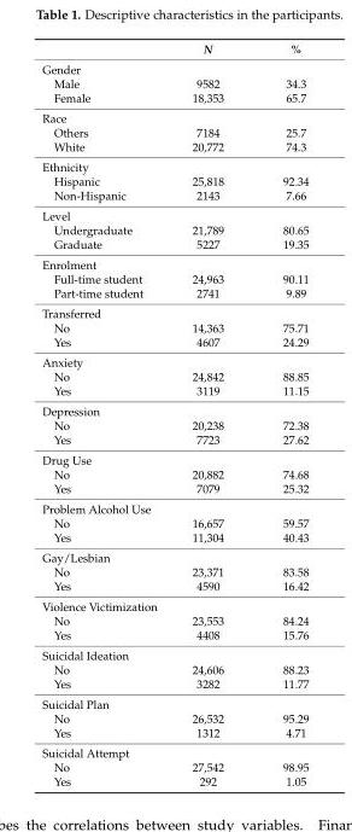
<table><thead><tr><td></td><td>N</td><td>%</td></tr></thead><tbody><tr><td colspan="3">Gender</td></tr><tr><td>Male</td><td>9582</td><td>34.3</td></tr><tr><td>Female</td><td>18,353</td><td>65.7</td></tr><tr><td colspan="3">Race</td></tr><tr><td>Others</td><td>7184</td><td>25.7</td></tr><tr><td>White</td><td>20,772</td><td>74.3</td></tr><tr><td colspan="3">Ethnicity</td></tr><tr><td>Hispanic</td><td>25,818</td><td>92.34</td></tr><tr><td>Non-Hispanic</td><td>2143</td><td>7.66</td></tr><tr><td colspan="3">Level</td></tr><tr><td>Undergraduate</td><td>21,789</td><td>80.65</td></tr><tr><td>Graduate</td><td>5227</td><td>19.35</td></tr><tr><td colspan="3">Enrolment</td></tr><tr><td>Full-time student</td><td>24,963</td><td>90.11</td></tr><tr><td>Part-time student</td><td>2741</td><td>9.89</td></tr><tr><td colspan="3">Transferred</td></tr><tr><td>No</td><td>14,363</td><td>75.71</td></tr><tr><td>Yes</td><td>4607</td><td>24.29</td></tr><tr><td colspan="3">Anxiety</td></tr><tr><td>No</td><td>24,842</td><td>88.85</td></tr><tr><td>Yes</td><td>3119</td><td>11.15</td></tr><tr><td colspan="3">Depression</td></tr><tr><td>No</td><td>20,238</td><td>72.38</td></tr><tr><td>Yes</td><td>7723</td><td>27.62</td></tr><tr><td colspan="3">Drug Use</td></tr><tr><td>No</td><td>20,882</td><td>74.68</td></tr><tr><td>Yes</td><td>7079</td><td>25.32</td></tr><tr><td colspan="3">Problem Alcohol Use</td></tr><tr><td>No</td><td>16,657</td><td>59.57</td></tr><tr><td>Yes</td><td>11,304</td><td>40.43</td></tr><tr><td colspan="3">Gay/Lesbian</td></tr><tr><td>No</td><td>23,371</td><td>83.58</td></tr><tr><td>Yes</td><td>4590</td><td>16.42</td></tr><tr><td colspan="3">Violence Victimization</td></tr><tr><td>No</td><td>23,553</td><td>84.24</td></tr><tr><td>Yes</td><td>4408</td><td>15.76</td></tr><tr><td colspan="3">Suicidal Ideation</td></tr><tr><td>No</td><td>24,606</td><td>88.23</td></tr><tr><td>Yes</td><td>3282</td><td>11.77</td></tr><tr><td colspan="3">Suicidal Plan</td></tr><tr><td>No</td><td>26,532</td><td>95.29</td></tr><tr><td>Yes</td><td>1312</td><td>4.71</td></tr><tr><td colspan="3">Suicidal Attempt</td></tr><tr><td>No</td><td>27,542</td><td>98.95</td></tr><tr><td>Yes</td><td>292</td><td>1.05</td></tr></tbody></table>